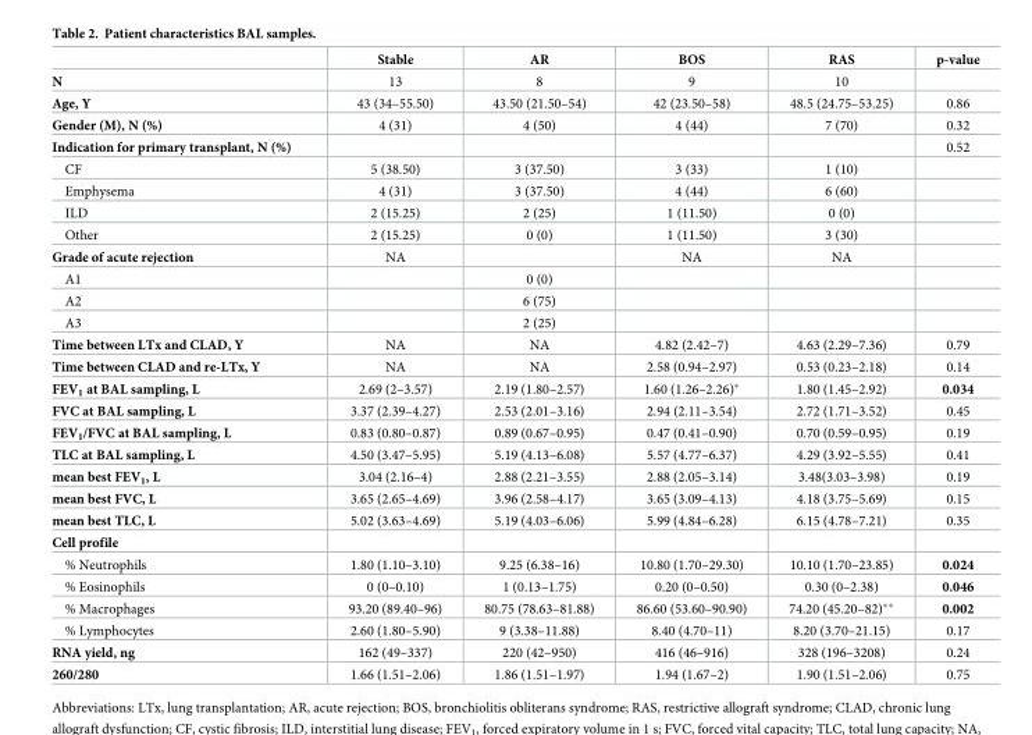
<table><thead><tr><td></td><td>Stable</td><td>AR</td><td>BOS</td><td>RAS</td><td>p-value</td></tr></thead><tbody><tr><td>N</td><td>13</td><td>8</td><td>9</td><td>10</td><td></td></tr><tr><td>Age, Y</td><td>43 (34–55.50)</td><td>43.50 (21.50–54)</td><td>42 (23.50–58)</td><td>48.5 (24.75–53.25)</td><td>0.86</td></tr><tr><td>Gender (M), N (%)</td><td>4 (31)</td><td>4 (50)</td><td>4 (44)</td><td>7 (70)</td><td>0.32</td></tr><tr><td>Indication for primary transplant, N (%)</td><td></td><td></td><td></td><td></td><td>0.52</td></tr><tr><td>CF</td><td>5 (38.50)</td><td>3 (37.50)</td><td>3 (33)</td><td>1 (10)</td><td></td></tr><tr><td>Emphysema</td><td>4 (31)</td><td>3 (37.50)</td><td>4 (44)</td><td>6 (60)</td><td></td></tr><tr><td>ILD</td><td>2 (15.25)</td><td>2 (25)</td><td>1 (11.50)</td><td>0 (0)</td><td></td></tr><tr><td>Other</td><td>2 (15.25)</td><td>0 (0)</td><td>1 (11.50)</td><td>3 (30)</td><td></td></tr><tr><td>Grade of acute rejection</td><td>NA</td><td></td><td>NA</td><td>NA</td><td></td></tr><tr><td>A1</td><td></td><td>0 (0)</td><td></td><td></td><td></td></tr><tr><td>A2</td><td></td><td>6 (75)</td><td></td><td></td><td></td></tr><tr><td>A3</td><td></td><td>2 (25)</td><td></td><td></td><td></td></tr><tr><td>Time between LTx and CLAD, Y</td><td>NA</td><td>NA</td><td>4.82 (2.42–7)</td><td>4.63 (2.29–7.36)</td><td>0.79</td></tr><tr><td>Time between CLAD and re-LTx, Y</td><td>NA</td><td>NA</td><td>2.58 (0.94–2.97)</td><td>0.53 (0.23–2.18)</td><td>0.14</td></tr><tr><td>FEV<sub>1</sub> at BAL sampling, L</td><td>2.69 (2–3.57)</td><td>2.19 (1.80–2.57)</td><td>1.60 (1.26–2.26)*</td><td>1.80 (1.45–2.92)</td><td>0.034</td></tr><tr><td>FVC at BAL sampling, L</td><td>3.37 (2.39–4.27)</td><td>2.53 (2.01–3.16)</td><td>2.94 (2.11–3.54)</td><td>2.72 (1.71–3.52)</td><td>0.45</td></tr><tr><td>FEV<sub>1</sub>/FVC at BAL sampling, L</td><td>0.83 (0.80–0.87)</td><td>0.89 (0.67–0.95)</td><td>0.47 (0.41–0.90)</td><td>0.70 (0.59–0.95)</td><td>0.19</td></tr><tr><td>TLC at BAL sampling, L</td><td>4.50 (3.47–5.95)</td><td>5.19 (4.13–6.08)</td><td>5.57 (4.77–6.37)</td><td>4.29 (3.92–5.55)</td><td>0.41</td></tr><tr><td>mean best FEV<sub>1</sub>, L</td><td>3.04 (2.16–4)</td><td>2.88 (2.21–3.55)</td><td>2.88 (2.05–3.14)</td><td>3.48(3.03–3.98)</td><td>0.19</td></tr><tr><td>mean best FVC, L</td><td>3.65 (2.65–4.69)</td><td>3.96 (2.58–4.17)</td><td>3.65 (3.09–4.13)</td><td>4.18 (3.75–5.69)</td><td>0.15</td></tr><tr><td>mean best TLC, L</td><td>5.02 (3.63–4.69)</td><td>5.19 (4.03–6.06)</td><td>5.99 (4.84–6.28)</td><td>6.15 (4.78–7.21)</td><td>0.35</td></tr><tr><td colspan="6">Cell profile</td></tr><tr><td>% Neutrophils</td><td>1.80 (1.10–3.10)</td><td>9.25 (6.38–16)</td><td>10.80 (1.70–29.30)</td><td>10.10 (1.70–23.85)</td><td>0.024</td></tr><tr><td>% Eosinophils</td><td>0 (0–0.10)</td><td>1 (0.13–1.75)</td><td>0.20 (0–0.50)</td><td>0.30 (0–2.38)</td><td>0.046</td></tr><tr><td>% Macrophages</td><td>93.20 (89.40–96)</td><td>80.75 (78.63–81.88)</td><td>86.60 (53.60–90.90)</td><td>74.20 (45.20–82)**</td><td>0.002</td></tr><tr><td>% Lymphocytes</td><td>2.60 (1.80–5.90)</td><td>9 (3.38–11.88)</td><td>8.40 (4.70–11)</td><td>8.20 (3.70–21.15)</td><td>0.17</td></tr><tr><td>RNA yield, ng</td><td>162 (49–337)</td><td>220 (42–950)</td><td>416 (46–916)</td><td>328 (196–3208)</td><td>0.24</td></tr><tr><td>260/280</td><td>1.66 (1.51–2.06)</td><td>1.86 (1.51–1.97)</td><td>1.94 (1.67–2)</td><td>1.90 (1.51–2.06)</td><td>0.75</td></tr></tbody></table>